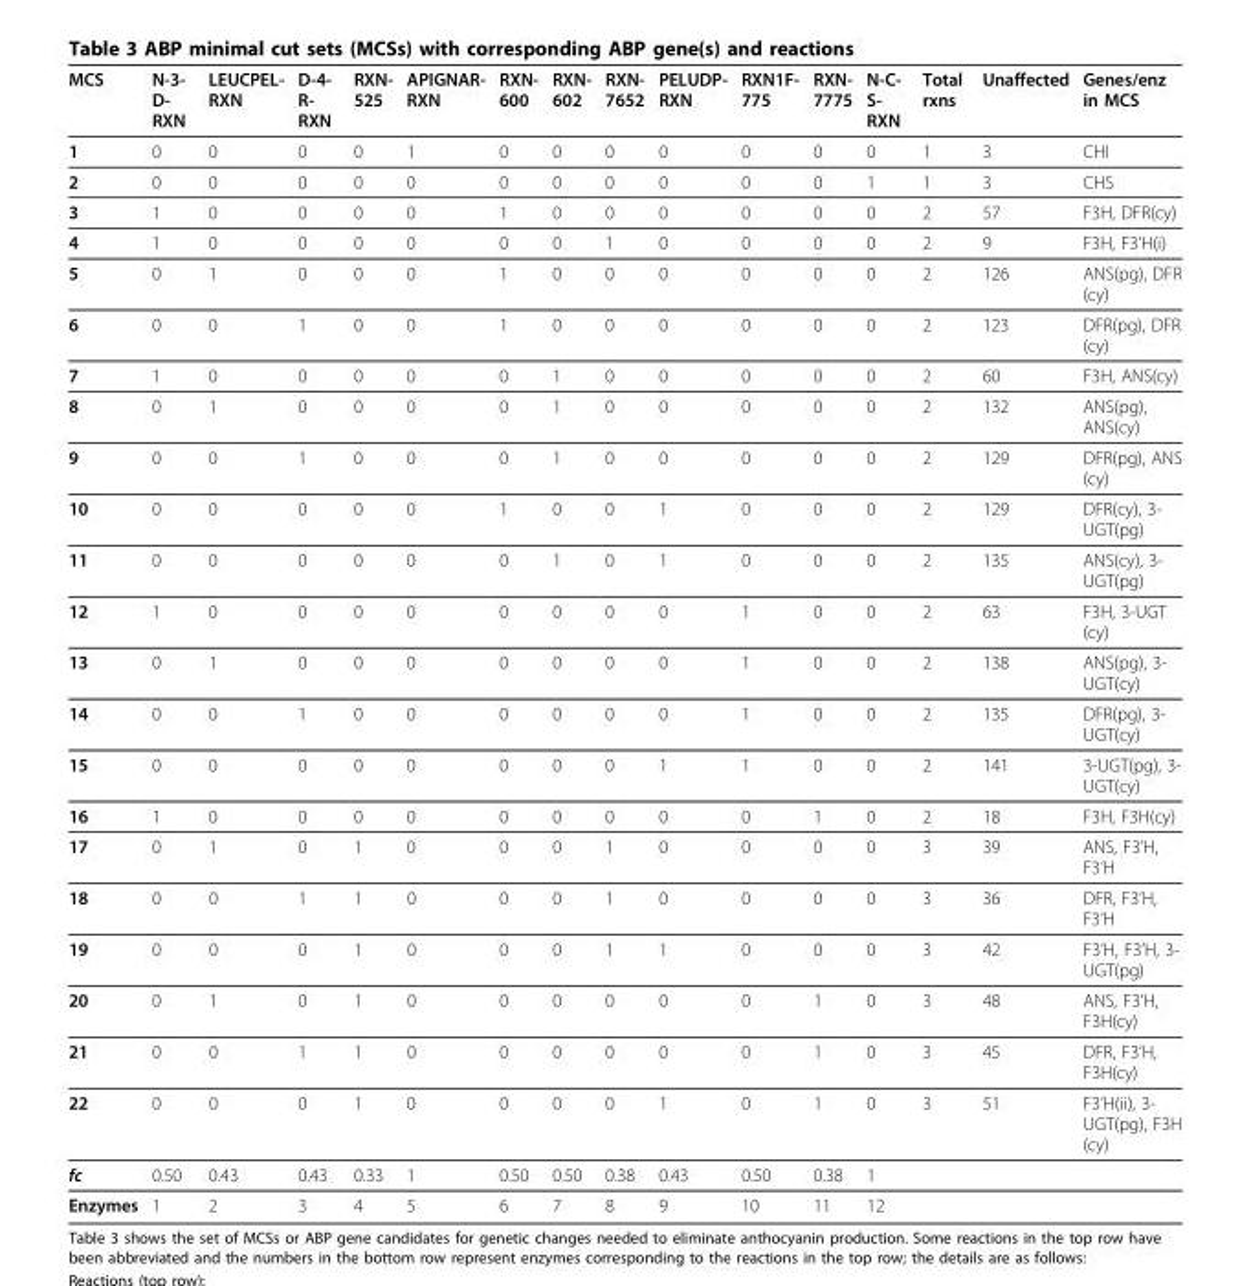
<table><thead><tr><td>MCS</td><td>N-3- D- RXN</td><td>LEUCPEL- RXN</td><td>D-4- R- RXN</td><td>RXN- 525</td><td>APIGNAR- RXN</td><td>RXN- 600</td><td>RXN- 602</td><td>RXN- 7652</td><td>PELUDP- RXN</td><td>RXN1F- 775</td><td>RXN- 7775</td><td>N-C- S- RXN</td><td>Total rxns</td><td>Unaffected</td><td>Genes/enz in MCS</td></tr></thead><tbody><tr><td>1</td><td>0</td><td>0</td><td>0</td><td>0</td><td>1</td><td>0</td><td>0</td><td>0</td><td>0</td><td>0</td><td>0</td><td>0</td><td>1</td><td>3</td><td>CHI</td></tr><tr><td>2</td><td>0</td><td>0</td><td>0</td><td>0</td><td>0</td><td>0</td><td>0</td><td>0</td><td>0</td><td>0</td><td>0</td><td>1</td><td>1</td><td>3</td><td>CHS</td></tr><tr><td>3</td><td>1</td><td>0</td><td>0</td><td>0</td><td>0</td><td>1</td><td>0</td><td>0</td><td>0</td><td>0</td><td>0</td><td>0</td><td>2</td><td>57</td><td>F3H, DFR(cy)</td></tr><tr><td>4</td><td>1</td><td>0</td><td>0</td><td>0</td><td>0</td><td>0</td><td>0</td><td>1</td><td>0</td><td>0</td><td>0</td><td>0</td><td>2</td><td>9</td><td>F3H, F3’H(i)</td></tr><tr><td>5</td><td>0</td><td>1</td><td>0</td><td>0</td><td>0</td><td>1</td><td>0</td><td>0</td><td>0</td><td>0</td><td>0</td><td>0</td><td>2</td><td>126</td><td>ANS(pg), DFR (cy)</td></tr><tr><td>6</td><td>0</td><td>0</td><td>1</td><td>0</td><td>0</td><td>1</td><td>0</td><td>0</td><td>0</td><td>0</td><td>0</td><td>0</td><td>2</td><td>123</td><td>DFR(pg), DFR (cy)</td></tr><tr><td>7</td><td>1</td><td>0</td><td>0</td><td>0</td><td>0</td><td>0</td><td>1</td><td>0</td><td>0</td><td>0</td><td>0</td><td>0</td><td>2</td><td>60</td><td>F3H, ANS(cy)</td></tr><tr><td>8</td><td>0</td><td>1</td><td>0</td><td>0</td><td>0</td><td>0</td><td>1</td><td>0</td><td>0</td><td>0</td><td>0</td><td>0</td><td>2</td><td>132</td><td>ANS(pg), ANS(cy)</td></tr><tr><td>9</td><td>0</td><td>0</td><td>1</td><td>0</td><td>0</td><td>0</td><td>1</td><td>0</td><td>0</td><td>0</td><td>0</td><td>0</td><td>2</td><td>129</td><td>DFR(pg), ANS (cy)</td></tr><tr><td>10</td><td>0</td><td>0</td><td>0</td><td>0</td><td>0</td><td>1</td><td>0</td><td>0</td><td>1</td><td>0</td><td>0</td><td>0</td><td>2</td><td>129</td><td>DFR(cy), 3- UGT(pg)</td></tr><tr><td>11</td><td>0</td><td>0</td><td>0</td><td>0</td><td>0</td><td>0</td><td>1</td><td>0</td><td>1</td><td>0</td><td>0</td><td>0</td><td>2</td><td>135</td><td>ANS(cy), 3- UGT(pg)</td></tr><tr><td>12</td><td>1</td><td>0</td><td>0</td><td>0</td><td>0</td><td>0</td><td>0</td><td>0</td><td>0</td><td>1</td><td>0</td><td>0</td><td>2</td><td>63</td><td>F3H, 3-UGT (cy)</td></tr><tr><td>13</td><td>0</td><td>1</td><td>0</td><td>0</td><td>0</td><td>0</td><td>0</td><td>0</td><td>0</td><td>1</td><td>0</td><td>0</td><td>2</td><td>138</td><td>ANS(pg), 3- UGT(cy)</td></tr><tr><td>14</td><td>0</td><td>0</td><td>1</td><td>0</td><td>0</td><td>0</td><td>0</td><td>0</td><td>0</td><td>1</td><td>0</td><td>0</td><td>2</td><td>135</td><td>DFR(pg), 3- UGT(cy)</td></tr><tr><td>15</td><td>0</td><td>0</td><td>0</td><td>0</td><td>0</td><td>0</td><td>0</td><td>0</td><td>1</td><td>1</td><td>0</td><td>0</td><td>2</td><td>141</td><td>3-UGT(pg), 3- UGT(cy)</td></tr><tr><td>16</td><td>1</td><td>0</td><td>0</td><td>0</td><td>0</td><td>0</td><td>0</td><td>0</td><td>0</td><td>0</td><td>1</td><td>0</td><td>2</td><td>18</td><td>F3H, F3H(cy)</td></tr><tr><td>17</td><td>0</td><td>1</td><td>0</td><td>1</td><td>0</td><td>0</td><td>0</td><td>1</td><td>0</td><td>0</td><td>0</td><td>0</td><td>3</td><td>39</td><td>ANS, F3’H, F3’H</td></tr><tr><td>18</td><td>0</td><td>0</td><td>1</td><td>1</td><td>0</td><td>0</td><td>0</td><td>1</td><td>0</td><td>0</td><td>0</td><td>0</td><td>3</td><td>36</td><td>DFR, F3’H, F3’H</td></tr><tr><td>19</td><td>0</td><td>0</td><td>0</td><td>1</td><td>0</td><td>0</td><td>0</td><td>1</td><td>1</td><td>0</td><td>0</td><td>0</td><td>3</td><td>42</td><td>F3’H, F3’H, 3- UGT(pg)</td></tr><tr><td>20</td><td>0</td><td>1</td><td>0</td><td>1</td><td>0</td><td>0</td><td>0</td><td>0</td><td>0</td><td>0</td><td>1</td><td>0</td><td>3</td><td>48</td><td>ANS, F3’H, F3H(cy)</td></tr><tr><td>21</td><td>0</td><td>0</td><td>1</td><td>1</td><td>0</td><td>0</td><td>0</td><td>0</td><td>0</td><td>0</td><td>1</td><td>0</td><td>3</td><td>45</td><td>DFR, F3’H, F3H(cy)</td></tr><tr><td>22</td><td>0</td><td>0</td><td>0</td><td>1</td><td>0</td><td>0</td><td>0</td><td>0</td><td>1</td><td>0</td><td>1</td><td>0</td><td>3</td><td>51</td><td>F3’H(ii), 3- UGT(pg), F3H (cy)</td></tr><tr><td>fc</td><td>0.50</td><td>0.43</td><td>0.43</td><td>0.33</td><td>1</td><td>0.50</td><td>0.50</td><td>0.38</td><td>0.43</td><td>0.50</td><td>0.38</td><td>1</td><td></td><td></td><td></td></tr><tr><td>Enzymes</td><td>1</td><td>2</td><td>3</td><td>4</td><td>5</td><td>6</td><td>7</td><td>8</td><td>9</td><td>10</td><td>11</td><td>12</td><td></td><td></td><td></td></tr></tbody></table>